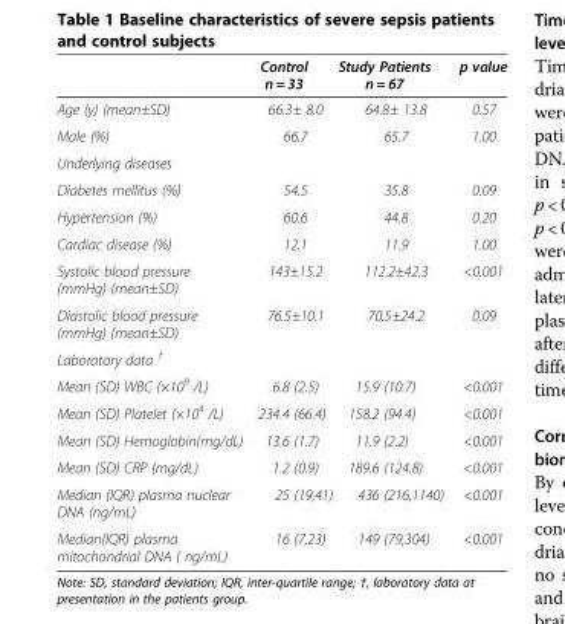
<table><thead><tr><td></td><td>Control n = 33</td><td>Study Patients n = 67</td><td>p value</td></tr></thead><tbody><tr><td>Age (y) (mean±SD)</td><td>66.3± 8.0</td><td>64.8± 13.8</td><td>0.57</td></tr><tr><td>Male (%)</td><td>66.7</td><td>65.7</td><td>1.00</td></tr><tr><td colspan="4">Underlying diseases</td></tr><tr><td>Diabetes mellitus (%)</td><td>54.5</td><td>35.8</td><td>0.09</td></tr><tr><td>Hypertension (%)</td><td>60.6</td><td>44.8</td><td>0.20</td></tr><tr><td>Cardiac disease (%)</td><td>12.1</td><td>11.9</td><td>1.00</td></tr><tr><td>Systolic blood pressure (mmHg) (mean±SD)</td><td>143±15.2</td><td>112.2±42.3</td><td>&lt;0.001</td></tr><tr><td>Diastolic blood pressure (mmHg) (mean±SD)</td><td>76.5±10.1</td><td>70.5±24.2</td><td>0.09</td></tr><tr><td colspan="4">Laboratory data <sup>†</sup></td></tr><tr><td>Mean (SD) WBC (×10<sup>9</sup> /L)</td><td>6.8 (2.5)</td><td>15.9 (10.7)</td><td>&lt;0.001</td></tr><tr><td>Mean (SD) Platelet (×10<sup>4</sup> /L)</td><td>234.4 (66.4)</td><td>158.2 (94.4)</td><td>&lt;0.001</td></tr><tr><td>Mean (SD) Hemoglobin(mg/dL)</td><td>13.6 (1.7)</td><td>11.9 (2.2)</td><td>&lt;0.001</td></tr><tr><td>Mean (SD) CRP (mg/dL)</td><td>1.2 (0.9)</td><td>189.6 (124.8)</td><td>&lt;0.001</td></tr><tr><td>Median (IQR) plasma nuclear DNA (ng/mL)</td><td>25 (19,41)</td><td>436 (216,1140)</td><td>&lt;0.001</td></tr><tr><td>Median(IQR) plasma mitochondrial DNA ( ng/mL)</td><td>16 (7,23)</td><td>149 (79,304)</td><td>&lt;0.001</td></tr></tbody></table>